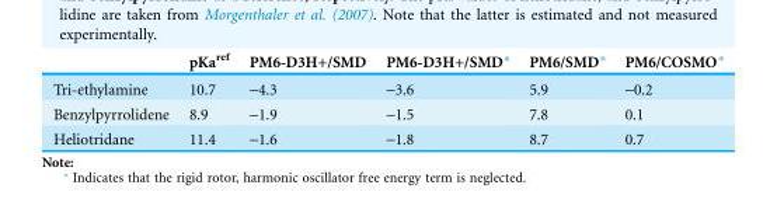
<table><thead><tr><td></td><td>pKa<sup>ref</sup></td><td>PM6-D3H+/SMD</td><td>PM6-D3H+/SMD*</td><td>PM6/SMD*</td><td>PM6/COSMO*</td></tr></thead><tbody><tr><td>Tri-ethylamine</td><td>10.7</td><td>-4.3</td><td>-3.6</td><td>5.9</td><td>-0.2</td></tr><tr><td>Benzylpyrrolidene</td><td>8.9</td><td>-1.9</td><td>-1.5</td><td>7.8</td><td>0.1</td></tr><tr><td>Heliotridane</td><td>11.4</td><td>-1.6</td><td>-1.8</td><td>8.7</td><td>0.7</td></tr></tbody></table>